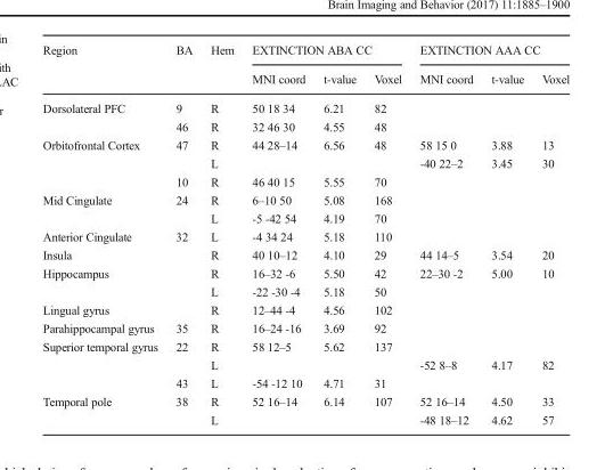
<table><thead><tr><td rowspan="2">Region</td><td rowspan="2">BA</td><td rowspan="2">Hem</td><td colspan="3">EXTINCTION ABA CC</td><td colspan="3">EXTINCTION AAA CC</td></tr><tr><td>MNI coord</td><td>t-value</td><td>Voxel</td><td>MNI coord</td><td>t-value</td><td>Voxel</td></tr></thead><tbody><tr><td rowspan="2">Dorsolateral PFC</td><td>9</td><td>R</td><td>50 18 34</td><td>6.21</td><td>82</td><td></td><td></td><td></td></tr><tr><td>46</td><td>R</td><td>32 46 30</td><td>4.55</td><td>48</td><td></td><td></td><td></td></tr><tr><td rowspan="3">Orbitofrontal Cortex</td><td>47</td><td>R</td><td>44 28–14</td><td>6.56</td><td>48</td><td>58 15 0</td><td>3.88</td><td>13</td></tr><tr><td></td><td>L</td><td></td><td></td><td></td><td>-40 22–2</td><td>3.45</td><td>30</td></tr><tr><td>10</td><td>R</td><td>46 40 15</td><td>5.55</td><td>70</td><td></td><td></td><td></td></tr><tr><td rowspan="2">Mid Cingulate</td><td>24</td><td>R</td><td>6–10 50</td><td>5.08</td><td>168</td><td></td><td></td><td></td></tr><tr><td></td><td>L</td><td>-5 -42 54</td><td>4.19</td><td>70</td><td></td><td></td><td></td></tr><tr><td>Anterior Cingulate</td><td>32</td><td>L</td><td>-4 34 24</td><td>5.18</td><td>110</td><td></td><td></td><td></td></tr><tr><td>Insula</td><td></td><td>R</td><td>40 10–12</td><td>4.10</td><td>29</td><td>44 14–5</td><td>3.54</td><td>20</td></tr><tr><td rowspan="2">Hippocampus</td><td></td><td>R</td><td>16–32 -6</td><td>5.50</td><td>42</td><td>22–30 -2</td><td>5.00</td><td>10</td></tr><tr><td></td><td>L</td><td>-22 -30 -4</td><td>5.18</td><td>50</td><td></td><td></td><td></td></tr><tr><td>Lingual gyrus</td><td></td><td>R</td><td>12–44 -4</td><td>4.56</td><td>102</td><td></td><td></td><td></td></tr><tr><td>Parahippocampal gyrus</td><td>35</td><td>R</td><td>16–24 -16</td><td>3.69</td><td>92</td><td></td><td></td><td></td></tr><tr><td rowspan="3">Superior temporal gyrus</td><td>22</td><td>R</td><td>58 12–5</td><td>5.62</td><td>137</td><td></td><td></td><td></td></tr><tr><td></td><td>L</td><td></td><td></td><td></td><td>-52 8–8</td><td>4.17</td><td>82</td></tr><tr><td>43</td><td>L</td><td>-54 -12 10</td><td>4.71</td><td>31</td><td></td><td></td><td></td></tr><tr><td rowspan="2">Temporal pole</td><td>38</td><td>R</td><td>52 16–14</td><td>6.14</td><td>107</td><td>52 16–14</td><td>4.50</td><td>33</td></tr><tr><td></td><td>L</td><td></td><td></td><td></td><td>-48 18–12</td><td>4.62</td><td>57</td></tr></tbody></table>